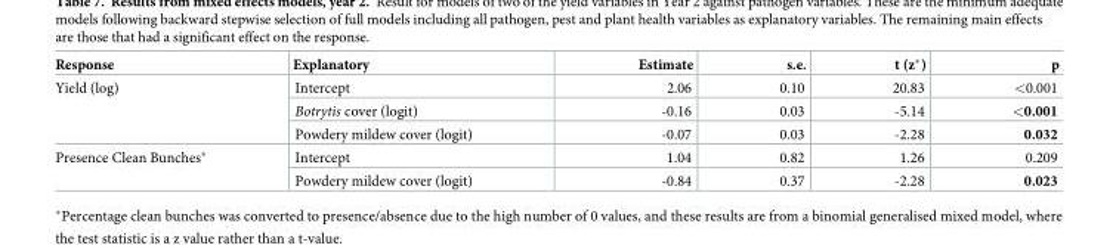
<table><thead><tr><td>Response</td><td>Explanatory</td><td>Estimate</td><td>s.e.</td><td>t (z*)</td><td>p</td></tr></thead><tbody><tr><td rowspan="3">Yield (log)</td><td>Intercept</td><td>2.06</td><td>0.10</td><td>20.83</td><td>&lt;0.001</td></tr><tr><td>Botrytis cover (logit)</td><td>-0.16</td><td>0.03</td><td>-5.14</td><td>&lt;0.001</td></tr><tr><td>Powdery mildew cover (logit)</td><td>-0.07</td><td>0.03</td><td>-2.28</td><td>0.032</td></tr><tr><td rowspan="2">Presence Clean Bunches*</td><td>Intercept</td><td>1.04</td><td>0.82</td><td>1.26</td><td>0.209</td></tr><tr><td>Powdery mildew cover (logit)</td><td>-0.84</td><td>0.37</td><td>-2.28</td><td>0.023</td></tr></tbody></table>